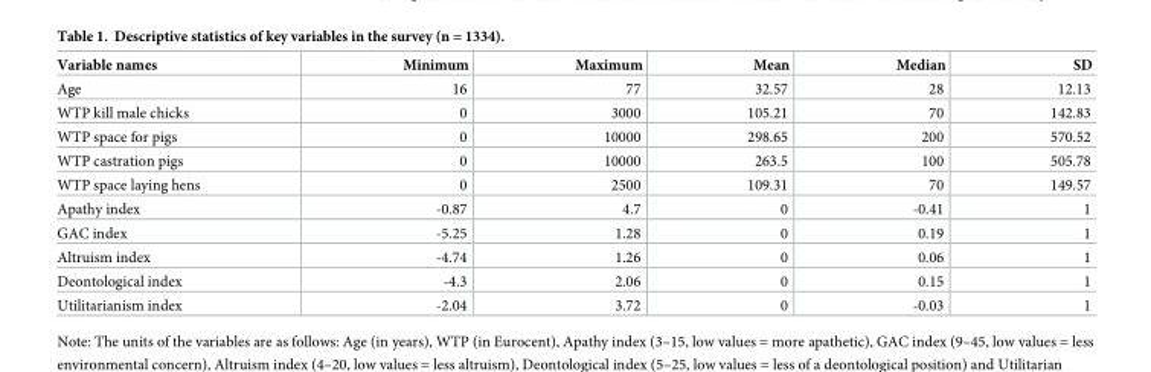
<table><thead><tr><td>Variable names</td><td>Minimum</td><td>Maximum</td><td>Mean</td><td>Median</td><td>SD</td></tr></thead><tbody><tr><td>Age</td><td>16</td><td>77</td><td>32.57</td><td>28</td><td>12.13</td></tr><tr><td>WTP kill male chicks</td><td>0</td><td>3000</td><td>105.21</td><td>70</td><td>142.83</td></tr><tr><td>WTP space for pigs</td><td>0</td><td>10000</td><td>298.65</td><td>200</td><td>570.52</td></tr><tr><td>WTP castration pigs</td><td>0</td><td>10000</td><td>263.5</td><td>100</td><td>505.78</td></tr><tr><td>WTP space laying hens</td><td>0</td><td>2500</td><td>109.31</td><td>70</td><td>149.57</td></tr><tr><td>Apathy index</td><td>-0.87</td><td>4.7</td><td>0</td><td>-0.41</td><td>1</td></tr><tr><td>GAC index</td><td>-5.25</td><td>1.28</td><td>0</td><td>0.19</td><td>1</td></tr><tr><td>Altruism index</td><td>-4.74</td><td>1.26</td><td>0</td><td>0.06</td><td>1</td></tr><tr><td>Deontological index</td><td>-4.3</td><td>2.06</td><td>0</td><td>0.15</td><td>1</td></tr><tr><td>Utilitarianism index</td><td>-2.04</td><td>3.72</td><td>0</td><td>-0.03</td><td>1</td></tr></tbody></table>